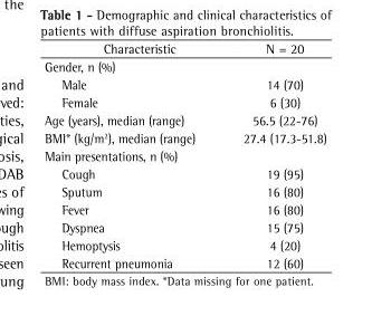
<table><thead><tr><td>Characteristic</td><td>N = 20</td></tr></thead><tbody><tr><td colspan="2">Gender, n (%)</td></tr><tr><td>Male</td><td>14 (70)</td></tr><tr><td>Female</td><td>6 (30)</td></tr><tr><td>Age (years), median (range)</td><td>56.5 (22-76)</td></tr><tr><td>BMI* (kg/m<sup>2</sup>), median (range)</td><td>27.4 (17.3-51.8)</td></tr><tr><td colspan="2">Main presentations, n (%)</td></tr><tr><td>Cough</td><td>19 (95)</td></tr><tr><td>Sputum</td><td>16 (80)</td></tr><tr><td>Fever</td><td>16 (80)</td></tr><tr><td>Dyspnea</td><td>15 (75)</td></tr><tr><td>Hemoptysis</td><td>4 (20)</td></tr><tr><td>Recurrent pneumonia</td><td>12 (60)</td></tr></tbody></table>